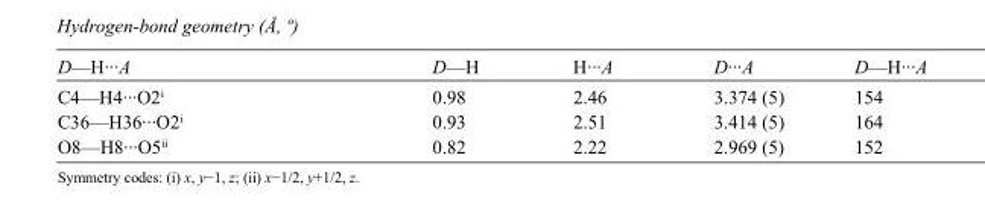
<table><tbody><tr><td>D—H···A</td><td>D—H</td><td>H···A</td><td>D···A</td><td>D—H···A</td></tr><tr><td>C4—H4···O2<sup>i</sup></td><td>0.98</td><td>2.46</td><td>3.374 (5)</td><td>154</td></tr><tr><td>C36—H36···O2<sup>i</sup></td><td>0.93</td><td>2.51</td><td>3.414 (5)</td><td>164</td></tr><tr><td>O8—H8···O5<sup>ii</sup></td><td>0.82</td><td>2.22</td><td>2.969 (5)</td><td>152</td></tr></tbody></table>